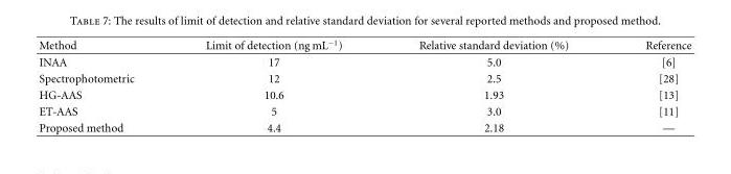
<table><thead><tr><td>Method</td><td>Limit of detection (ng mL<sup>−1</sup>)</td><td>Relative standard deviation (%)</td><td>Reference</td></tr></thead><tbody><tr><td>INAA</td><td>17</td><td>5.0</td><td>[6]</td></tr><tr><td>Spectrophotometric</td><td>12</td><td>2.5</td><td>[28]</td></tr><tr><td>HG-AAS</td><td>10.6</td><td>1.93</td><td>[13]</td></tr><tr><td>ET-AAS</td><td>5</td><td>3.0</td><td>[11]</td></tr><tr><td>Proposed method</td><td>4.4</td><td>2.18</td><td>—</td></tr></tbody></table>